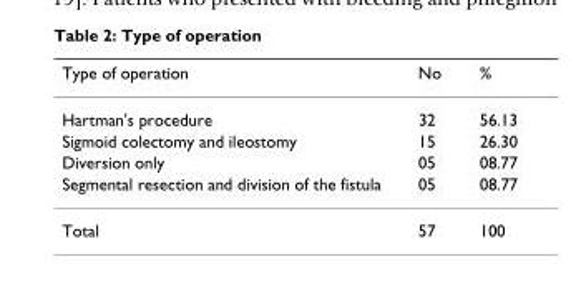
<table><thead><tr><td>Type of operation</td><td>No</td><td>%</td></tr></thead><tbody><tr><td>Hartman&#x27;s procedure</td><td>32</td><td>56.13</td></tr><tr><td>Sigmoid colectomy and ileostomy</td><td>15</td><td>26.30</td></tr><tr><td>Diversion only</td><td>05</td><td>08.77</td></tr><tr><td>Segmental resection and division of the fistula</td><td>05</td><td>08.77</td></tr><tr><td>Total</td><td>57</td><td>100</td></tr></tbody></table>